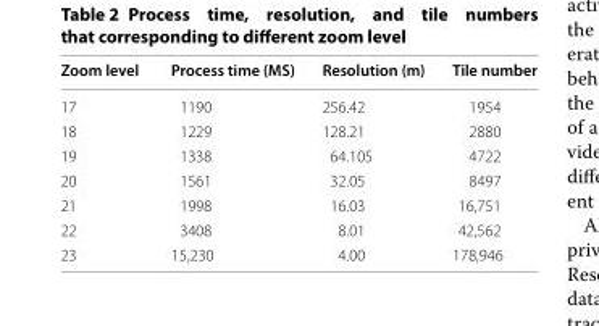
<table><thead><tr><td>Zoom level</td><td>Process time (MS)</td><td>Resolution (m)</td><td>Tile number</td></tr></thead><tbody><tr><td>17</td><td>1190</td><td>256.42</td><td>1954</td></tr><tr><td>18</td><td>1229</td><td>128.21</td><td>2880</td></tr><tr><td>19</td><td>1338</td><td>64.105</td><td>4722</td></tr><tr><td>20</td><td>1561</td><td>32.05</td><td>8497</td></tr><tr><td>21</td><td>1998</td><td>16.03</td><td>16,751</td></tr><tr><td>22</td><td>3408</td><td>8.01</td><td>42,562</td></tr><tr><td>23</td><td>15,230</td><td>4.00</td><td>178,946</td></tr></tbody></table>